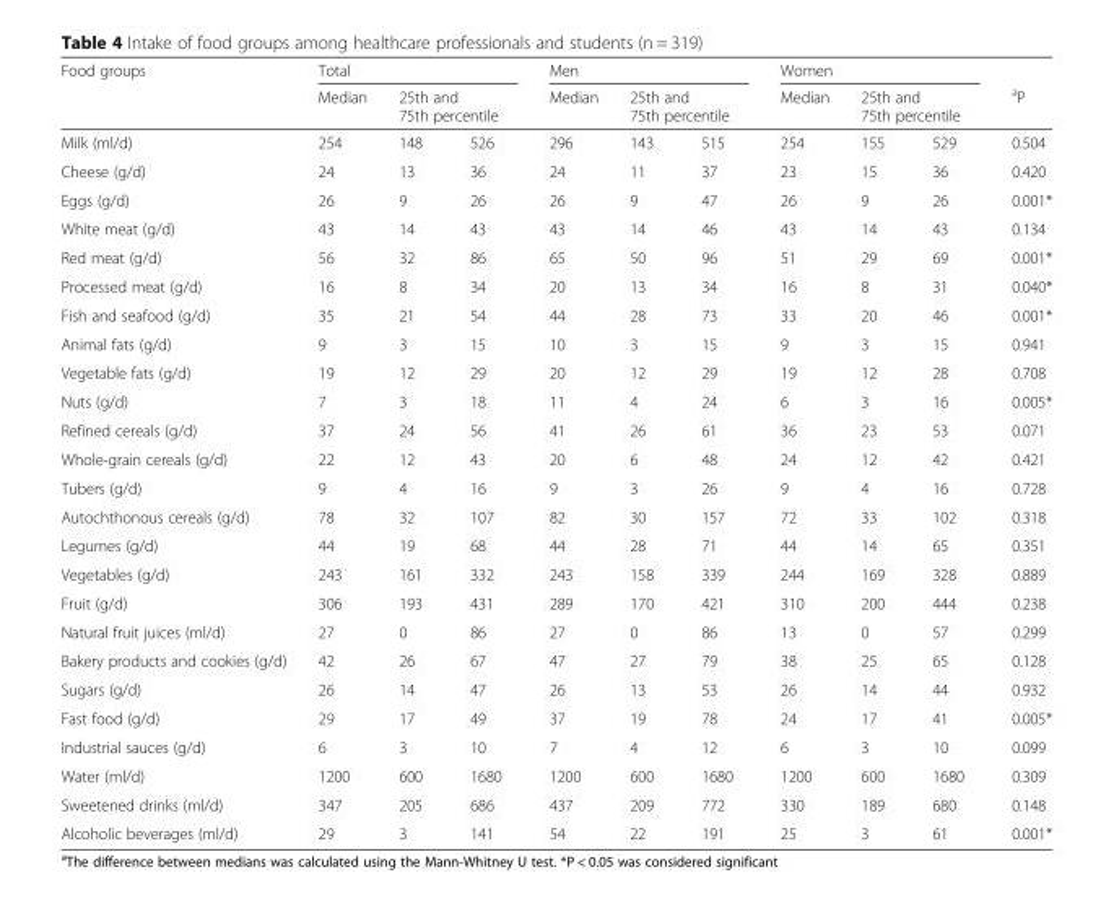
<table><thead><tr><td rowspan="3">Food groups Milk (ml/d)</td><td colspan="3">Total</td><td colspan="3">Men</td><td colspan="3">Women</td><td rowspan="3"><sup>a</sup>P 0.504</td></tr><tr><td rowspan="2">Median 254</td><td colspan="2">25th and 75th percentile</td><td rowspan="2">Median 296</td><td colspan="2">25th and 75th percentile</td><td rowspan="2">Median 254</td><td colspan="2">25th and 75th percentile</td></tr><tr><td>148</td><td>526</td><td>143</td><td>515</td><td>155</td><td>529</td></tr></thead><tbody><tr><td>Cheese (g/d)</td><td>24</td><td>13</td><td>36</td><td>24</td><td>11</td><td>37</td><td>23</td><td>15</td><td>36</td><td>0.420</td></tr><tr><td>Eggs (g/d)</td><td>26</td><td>9</td><td>26</td><td>26</td><td>9</td><td>47</td><td>26</td><td>9</td><td>26</td><td>0.001*</td></tr><tr><td>White meat (g/d)</td><td>43</td><td>14</td><td>43</td><td>43</td><td>14</td><td>46</td><td>43</td><td>14</td><td>43</td><td>0.134</td></tr><tr><td>Red meat (g/d)</td><td>56</td><td>32</td><td>86</td><td>65</td><td>50</td><td>96</td><td>51</td><td>29</td><td>69</td><td>0.001*</td></tr><tr><td>Processed meat (g/d)</td><td>16</td><td>8</td><td>34</td><td>20</td><td>13</td><td>34</td><td>16</td><td>8</td><td>31</td><td>0.040*</td></tr><tr><td>Fish and seafood (g/d)</td><td>35</td><td>21</td><td>54</td><td>44</td><td>28</td><td>73</td><td>33</td><td>20</td><td>46</td><td>0.001*</td></tr><tr><td>Animal fats (g/d)</td><td>9</td><td>3</td><td>15</td><td>10</td><td>3</td><td>15</td><td>9</td><td>3</td><td>15</td><td>0.941</td></tr><tr><td>Vegetable fats (g/d)</td><td>19</td><td>12</td><td>29</td><td>20</td><td>12</td><td>29</td><td>19</td><td>12</td><td>28</td><td>0.708</td></tr><tr><td>Nuts (g/d)</td><td>7</td><td>3</td><td>18</td><td>11</td><td>4</td><td>24</td><td>6</td><td>3</td><td>16</td><td>0.005*</td></tr><tr><td>Refined cereals (g/d)</td><td>37</td><td>24</td><td>56</td><td>41</td><td>26</td><td>61</td><td>36</td><td>23</td><td>53</td><td>0.071</td></tr><tr><td>Whole-grain cereals (g/d)</td><td>22</td><td>12</td><td>43</td><td>20</td><td>6</td><td>48</td><td>24</td><td>12</td><td>42</td><td>0.421</td></tr><tr><td>Tubers (g/d)</td><td>9</td><td>4</td><td>16</td><td>9</td><td>3</td><td>26</td><td>9</td><td>4</td><td>16</td><td>0.728</td></tr><tr><td>Autochthonous cereals (g/d)</td><td>78</td><td>32</td><td>107</td><td>82</td><td>30</td><td>157</td><td>72</td><td>33</td><td>102</td><td>0.318</td></tr><tr><td>Legumes (g/d)</td><td>44</td><td>19</td><td>68</td><td>44</td><td>28</td><td>71</td><td>44</td><td>14</td><td>65</td><td>0.351</td></tr><tr><td>Vegetables (g/d)</td><td>243</td><td>161</td><td>332</td><td>243</td><td>158</td><td>339</td><td>244</td><td>169</td><td>328</td><td>0.889</td></tr><tr><td>Fruit (g/d)</td><td>306</td><td>193</td><td>431</td><td>289</td><td>170</td><td>421</td><td>310</td><td>200</td><td>444</td><td>0.238</td></tr><tr><td>Natural fruit juices (ml/d)</td><td>27</td><td>0</td><td>86</td><td>27</td><td>0</td><td>86</td><td>13</td><td>0</td><td>57</td><td>0.299</td></tr><tr><td>Bakery products and cookies (g/d)</td><td>42</td><td>26</td><td>67</td><td>47</td><td>27</td><td>79</td><td>38</td><td>25</td><td>65</td><td>0.128</td></tr><tr><td>Sugars (g/d)</td><td>26</td><td>14</td><td>47</td><td>26</td><td>13</td><td>53</td><td>26</td><td>14</td><td>44</td><td>0.932</td></tr><tr><td>Fast food (g/d)</td><td>29</td><td>17</td><td>49</td><td>37</td><td>19</td><td>78</td><td>24</td><td>17</td><td>41</td><td>0.005*</td></tr><tr><td>Industrial sauces (g/d)</td><td>6</td><td>3</td><td>10</td><td>7</td><td>4</td><td>12</td><td>6</td><td>3</td><td>10</td><td>0.099</td></tr><tr><td>Water (ml/d)</td><td>1200</td><td>600</td><td>1680</td><td>1200</td><td>600</td><td>1680</td><td>1200</td><td>600</td><td>1680</td><td>0.309</td></tr><tr><td>Sweetened drinks (ml/d)</td><td>347</td><td>205</td><td>686</td><td>437</td><td>209</td><td>772</td><td>330</td><td>189</td><td>680</td><td>0.148</td></tr><tr><td>Alcoholic beverages (ml/d)</td><td>29</td><td>3</td><td>141</td><td>54</td><td>22</td><td>191</td><td>25</td><td>3</td><td>61</td><td>0.001*</td></tr></tbody></table>